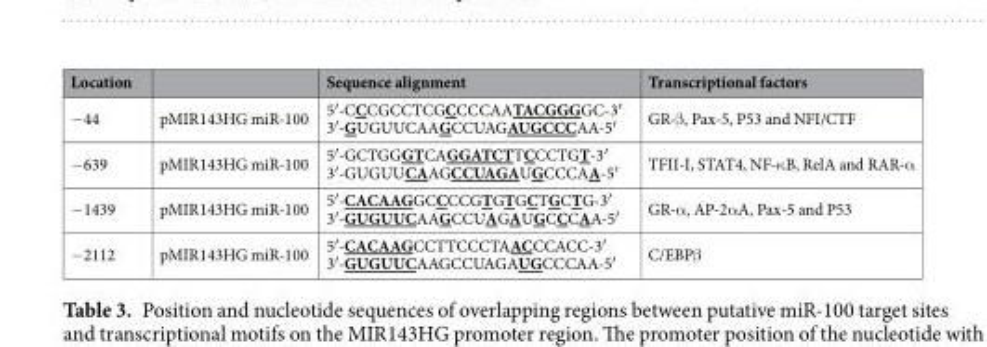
<table><thead><tr><td>Location</td><td></td><td>Sequence alignment</td><td>Transcriptional factors</td></tr></thead><tbody><tr><td>−44</td><td>pMIR143HG miR-100</td><td>5′-CCCGCCTCGCCCCAATACGGGGC-3′ 3′-GUGUUCAAGCCUAGAUGCCCAA-5′</td><td>GR-β, Pax-5, P53 and NFI/CTF</td></tr><tr><td>−639</td><td>pMIR143HG miR-100</td><td>5′-GCTGGGTCAGGATCTTCCCTGT-3′ 3′-GUGUUCAAGCCUAGAUGCCCAA-5′</td><td>TFII-I, STAT4, NF-κB, RelA and RAR-α</td></tr><tr><td>−1439</td><td>pMIR143HG miR-100</td><td>5′-CACAAGGCCCCGTGTGCTGCTG-3′ 3′-GUGUUCAAGCCUAGAUGCCCAA-5′</td><td>GR-α, AP-2αA, Pax-5 and P53</td></tr><tr><td>−2112</td><td>pMIR143HG miR-100</td><td>5′-CACAAGCCTTCCCTAACCCACC-3′ 3′-GUGUUCAAGCCUAGAUGCCCAA-5′</td><td>C/EBPβ</td></tr></tbody></table>